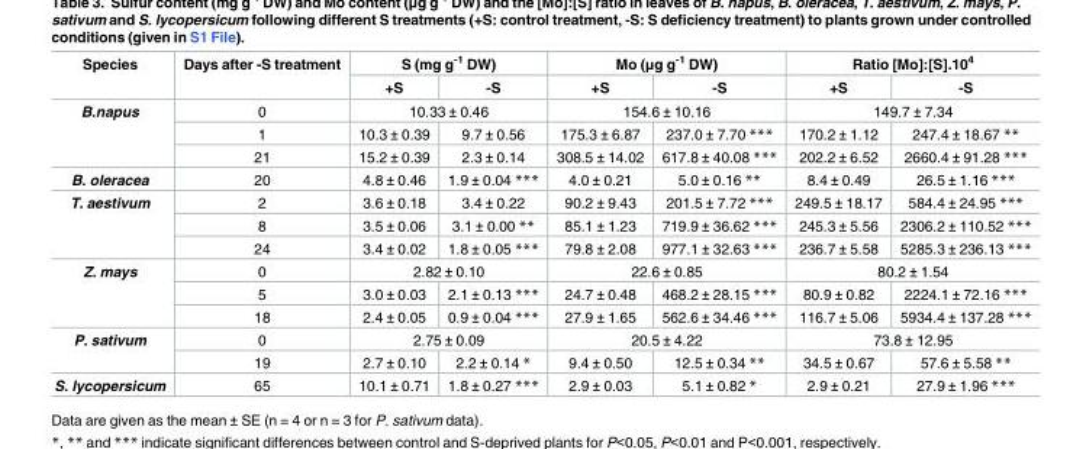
<table><thead><tr><td rowspan="2">Species</td><td rowspan="2">Days after -S treatment</td><td colspan="2">S (mg g<sup>-1</sup> DW)</td><td colspan="2">Mo (μg g<sup>-1</sup> DW)</td><td colspan="2">Ratio [Mo]:[S].10<sup>4</sup></td></tr><tr><td>+S</td><td>-S</td><td>+S</td><td>-S</td><td>+S</td><td>-S</td></tr></thead><tbody><tr><td rowspan="3">B.napus</td><td>0</td><td colspan="2">10.33 ± 0.46</td><td colspan="2">154.6 ± 10.16</td><td colspan="2">149.7 ± 7.34</td></tr><tr><td>1</td><td>10.3 ± 0.39</td><td>9.7 ± 0.56</td><td>175.3 ± 6.87</td><td>237.0 ± 7.70 ***</td><td>170.2 ± 1.12</td><td>247.4 ± 18.67 **</td></tr><tr><td>21</td><td>15.2 ± 0.39</td><td>2.3 ± 0.14</td><td>308.5 ± 14.02</td><td>617.8 ± 40.08 ***</td><td>202.2 ± 6.52</td><td>2660.4 ± 91.28 ***</td></tr><tr><td>B. oleracea</td><td>20</td><td>4.8 ± 0.46</td><td>1.9 ± 0.04 ***</td><td>4.0 ± 0.21</td><td>5.0 ± 0.16 **</td><td>8.4 ± 0.49</td><td>26.5 ± 1.16 ***</td></tr><tr><td rowspan="3">T. aestivum</td><td>2</td><td>3.6 ± 0.18</td><td>3.4 ± 0.22</td><td>90.2 ± 9.43</td><td>201.5 ± 7.72 ***</td><td>249.5 ± 18.17</td><td>584.4 ± 24.95 ***</td></tr><tr><td>8</td><td>3.5 ± 0.06</td><td>3.1 ± 0.00 **</td><td>85.1 ± 1.23</td><td>719.9 ± 36.62 ***</td><td>245.3 ± 5.56</td><td>2306.2 ± 110.52 ***</td></tr><tr><td>24</td><td>3.4 ± 0.02</td><td>1.8 ± 0.05 ***</td><td>79.8 ± 2.08</td><td>977.1 ± 32.63 ***</td><td>236.7 ± 5.58</td><td>5285.3 ± 236.13 ***</td></tr><tr><td rowspan="3">Z. mays</td><td>0</td><td colspan="2">2.82 ± 0.10</td><td colspan="2">22.6 ± 0.85</td><td colspan="2">80.2 ± 1.54</td></tr><tr><td>5</td><td>3.0 ± 0.03</td><td>2.1 ± 0.13 ***</td><td>24.7 ± 0.48</td><td>468.2 ± 28.15 ***</td><td>80.9 ± 0.82</td><td>2224.1 ± 72.16 ***</td></tr><tr><td>18</td><td>2.4 ± 0.05</td><td>0.9 ± 0.04 ***</td><td>27.9 ± 1.65</td><td>562.6 ± 34.46 ***</td><td>116.7 ± 5.06</td><td>5934.4 ± 137.28 ***</td></tr><tr><td rowspan="2">P. sativum</td><td>0</td><td colspan="2">2.75 ± 0.09</td><td colspan="2">20.5 ± 4.22</td><td colspan="2">73.8 ± 12.95</td></tr><tr><td>19</td><td>2.7 ± 0.10</td><td>2.2 ± 0.14 *</td><td>9.4 ± 0.50</td><td>12.5 ± 0.34 **</td><td>34.5 ± 0.67</td><td>57.6 ± 5.58 **</td></tr><tr><td>S. lycopersicum</td><td>65</td><td>10.1 ± 0.71</td><td>1.8 ± 0.27 ***</td><td>2.9 ± 0.03</td><td>5.1 ± 0.82 *</td><td>2.9 ± 0.21</td><td>27.9 ± 1.96 ***</td></tr></tbody></table>